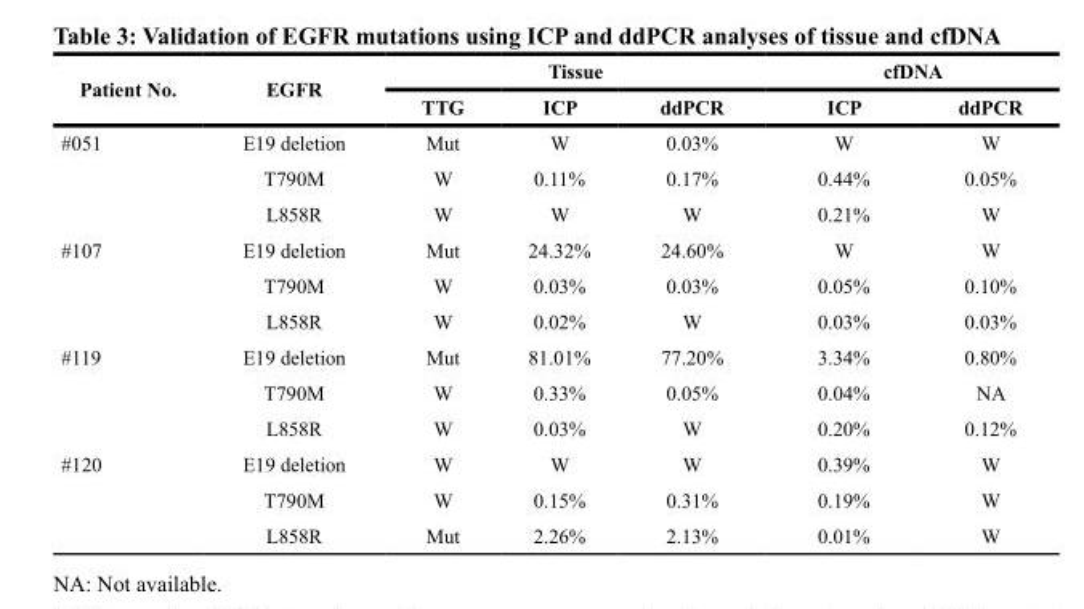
<table><thead><tr><td rowspan="2">Patient No.</td><td rowspan="2">EGFR</td><td colspan="3">Tissue</td><td colspan="2">cfDNA</td></tr><tr><td>TTG</td><td>ICP</td><td>ddPCR</td><td>ICP</td><td>ddPCR</td></tr></thead><tbody><tr><td rowspan="3">#051</td><td>E19 deletion</td><td>Mut</td><td>W</td><td>0.03%</td><td>W</td><td>W</td></tr><tr><td>T790M</td><td>W</td><td>0.11%</td><td>0.17%</td><td>0.44%</td><td>0.05%</td></tr><tr><td>L858R</td><td>W</td><td>W</td><td>W</td><td>0.21%</td><td>W</td></tr><tr><td rowspan="3">#107</td><td>E19 deletion</td><td>Mut</td><td>24.32%</td><td>24.60%</td><td>W</td><td>W</td></tr><tr><td>T790M</td><td>W</td><td>0.03%</td><td>0.03%</td><td>0.05%</td><td>0.10%</td></tr><tr><td>L858R</td><td>W</td><td>0.02%</td><td>W</td><td>0.03%</td><td>0.03%</td></tr><tr><td rowspan="3">#119</td><td>E19 deletion</td><td>Mut</td><td>81.01%</td><td>77.20%</td><td>3.34%</td><td>0.80%</td></tr><tr><td>T790M</td><td>W</td><td>0.33%</td><td>0.05%</td><td>0.04%</td><td>NA</td></tr><tr><td>L858R</td><td>W</td><td>0.03%</td><td>W</td><td>0.20%</td><td>0.12%</td></tr><tr><td rowspan="3">#120</td><td>E19 deletion</td><td>W</td><td>W</td><td>W</td><td>0.39%</td><td>W</td></tr><tr><td>T790M</td><td>W</td><td>0.15%</td><td>0.31%</td><td>0.19%</td><td>W</td></tr><tr><td>L858R</td><td>Mut</td><td>2.26%</td><td>2.13%</td><td>0.01%</td><td>W</td></tr></tbody></table>